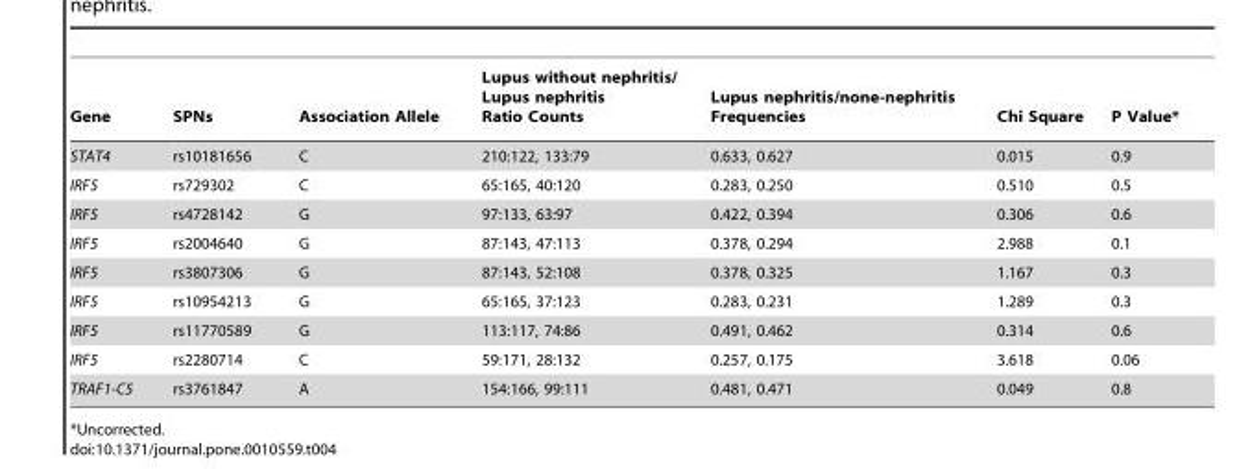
<table><thead><tr><td>Gene</td><td>SPNs</td><td>Association Allele</td><td>Lupus without nephritis/ Lupus nephritis Ratio Counts</td><td>Lupus nephritis/none-nephritis Frequencies</td><td>Chi Square</td><td>P Value*</td></tr></thead><tbody><tr><td>STAT4</td><td>rs10181656</td><td>C</td><td>210:122, 133:79</td><td>0.633, 0.627</td><td>0.015</td><td>0.9</td></tr><tr><td>IRF5</td><td>rs729302</td><td>C</td><td>65:165, 40:120</td><td>0.283, 0.250</td><td>0.510</td><td>0.5</td></tr><tr><td>IRF5</td><td>rs4728142</td><td>G</td><td>97:133, 63:97</td><td>0.422, 0.394</td><td>0.306</td><td>0.6</td></tr><tr><td>IRF5</td><td>rs2004640</td><td>G</td><td>87:143, 47:113</td><td>0.378, 0.294</td><td>2.988</td><td>0.1</td></tr><tr><td>IRF5</td><td>rs3807306</td><td>G</td><td>87:143, 52:108</td><td>0.378, 0.325</td><td>1.167</td><td>0.3</td></tr><tr><td>IRF5</td><td>rs10954213</td><td>G</td><td>65:165, 37:123</td><td>0.283, 0.231</td><td>1.289</td><td>0.3</td></tr><tr><td>IRF5</td><td>rs11770589</td><td>G</td><td>113:117, 74:86</td><td>0.491, 0.462</td><td>0.314</td><td>0.6</td></tr><tr><td>IRF5</td><td>rs2280714</td><td>C</td><td>59:171, 28:132</td><td>0.257, 0.175</td><td>3.618</td><td>0.06</td></tr><tr><td>TRAF1-C5</td><td>rs3761847</td><td>A</td><td>154:166, 99:111</td><td>0.481, 0.471</td><td>0.049</td><td>0.8</td></tr></tbody></table>